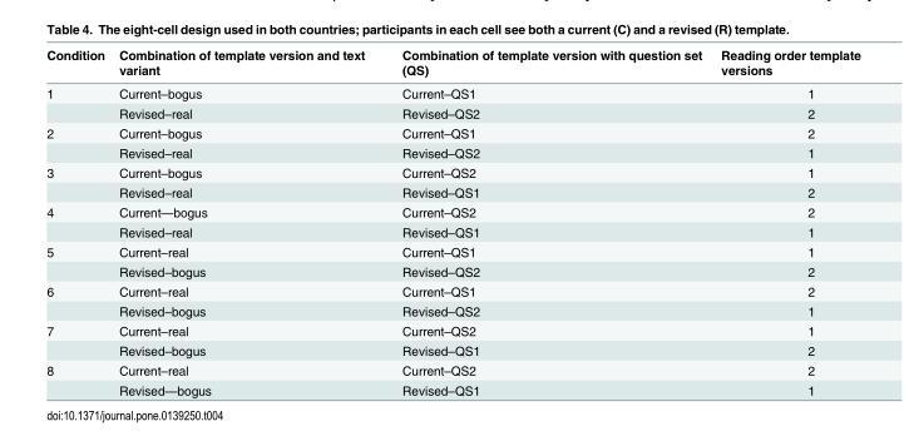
<table><thead><tr><td>Condition</td><td>Combination of template version and text variant</td><td>Combination of template version with question set (QS)</td><td>Reading order template versions</td></tr></thead><tbody><tr><td rowspan="2">1</td><td>Current–bogus</td><td>Current–QS1</td><td>1</td></tr><tr><td>Revised–real</td><td>Revised–QS2</td><td>2</td></tr><tr><td rowspan="2">2</td><td>Current–bogus</td><td>Current–QS1</td><td>2</td></tr><tr><td>Revised–real</td><td>Revised–QS2</td><td>1</td></tr><tr><td rowspan="2">3</td><td>Current–bogus</td><td>Current–QS2</td><td>1</td></tr><tr><td>Revised–real</td><td>Revised–QS1</td><td>2</td></tr><tr><td rowspan="2">4</td><td>Current—bogus</td><td>Current–QS2</td><td>2</td></tr><tr><td>Revised–real</td><td>Revised–QS1</td><td>1</td></tr><tr><td rowspan="2">5</td><td>Current–real</td><td>Current–QS1</td><td>1</td></tr><tr><td>Revised–bogus</td><td>Revised–QS2</td><td>2</td></tr><tr><td rowspan="2">6</td><td>Current–real</td><td>Current–QS1</td><td>2</td></tr><tr><td>Revised–bogus</td><td>Revised–QS2</td><td>1</td></tr><tr><td rowspan="2">7</td><td>Current–real</td><td>Current–QS2</td><td>1</td></tr><tr><td>Revised–bogus</td><td>Revised–QS1</td><td>2</td></tr><tr><td rowspan="2">8</td><td>Current–real</td><td>Current–QS2</td><td>2</td></tr><tr><td>Revised—bogus</td><td>Revised–QS1</td><td>1</td></tr></tbody></table>